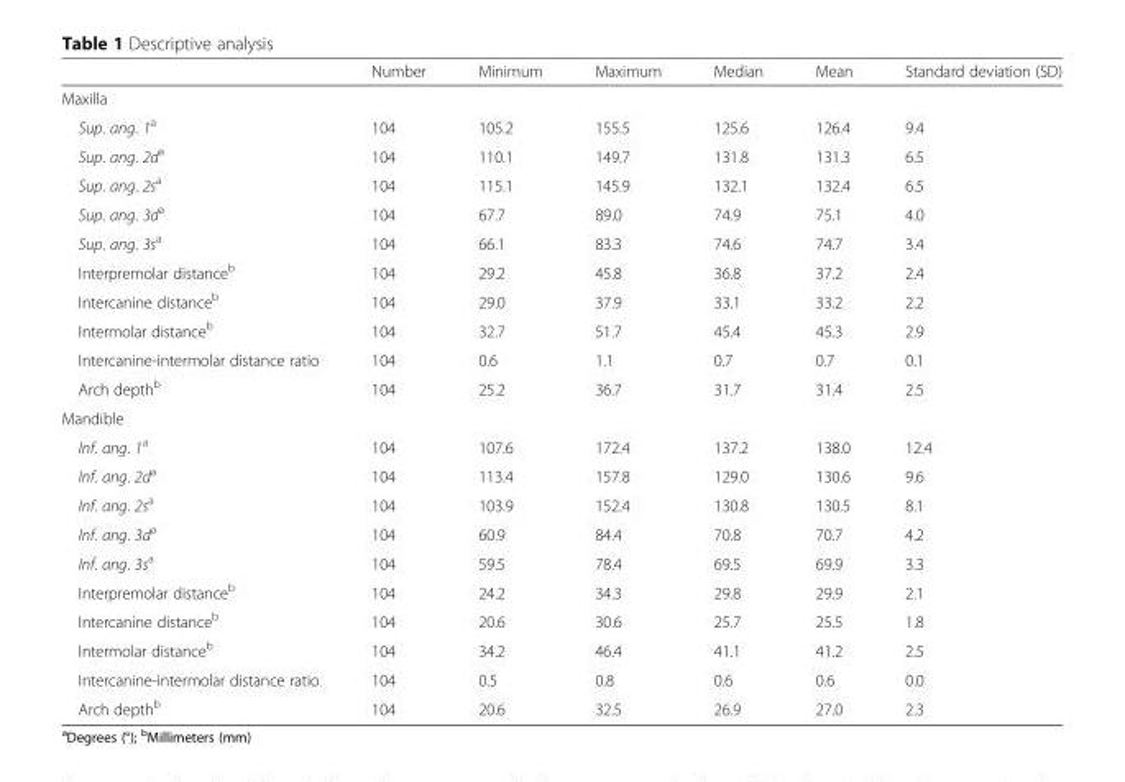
<table><thead><tr><td></td><td>Number</td><td>Minimum</td><td>Maximum</td><td>Median</td><td>Mean</td><td>Standard deviation (SD)</td></tr></thead><tbody><tr><td colspan="7">Maxilla</td></tr><tr><td>Sup. ang. 1<sup>a</sup></td><td>104</td><td>105.2</td><td>155.5</td><td>125.6</td><td>126.4</td><td>9.4</td></tr><tr><td>Sup. ang. 2d<sup>a</sup></td><td>104</td><td>110.1</td><td>149.7</td><td>131.8</td><td>131.3</td><td>6.5</td></tr><tr><td>Sup. ang. 2s<sup>a</sup></td><td>104</td><td>115.1</td><td>145.9</td><td>132.1</td><td>132.4</td><td>6.5</td></tr><tr><td>Sup. ang. 3d<sup>a</sup></td><td>104</td><td>67.7</td><td>89.0</td><td>74.9</td><td>75.1</td><td>4.0</td></tr><tr><td>Sup. ang. 3s<sup>a</sup></td><td>104</td><td>66.1</td><td>83.3</td><td>74.6</td><td>74.7</td><td>3.4</td></tr><tr><td>Interpremolar distance<sup>b</sup></td><td>104</td><td>29.2</td><td>45.8</td><td>36.8</td><td>37.2</td><td>2.4</td></tr><tr><td>Intercanine distance<sup>b</sup></td><td>104</td><td>29.0</td><td>37.9</td><td>33.1</td><td>33.2</td><td>2.2</td></tr><tr><td>Intermolar distance<sup>b</sup></td><td>104</td><td>32.7</td><td>51.7</td><td>45.4</td><td>45.3</td><td>2.9</td></tr><tr><td>Intercanine-intermolar distance ratio</td><td>104</td><td>0.6</td><td>1.1</td><td>0.7</td><td>0.7</td><td>0.1</td></tr><tr><td>Arch depth<sup>b</sup></td><td>104</td><td>25.2</td><td>36.7</td><td>31.7</td><td>31.4</td><td>2.5</td></tr><tr><td colspan="7">Mandible</td></tr><tr><td>Inf. ang. 1<sup>a</sup></td><td>104</td><td>107.6</td><td>172.4</td><td>137.2</td><td>138.0</td><td>12.4</td></tr><tr><td>Inf. ang. 2d<sup>a</sup></td><td>104</td><td>113.4</td><td>157.8</td><td>129.0</td><td>130.6</td><td>9.6</td></tr><tr><td>Inf. ang. 2s<sup>a</sup></td><td>104</td><td>103.9</td><td>152.4</td><td>130.8</td><td>130.5</td><td>8.1</td></tr><tr><td>Inf. ang. 3d<sup>a</sup></td><td>104</td><td>60.9</td><td>84.4</td><td>70.8</td><td>70.7</td><td>4.2</td></tr><tr><td>Inf. ang. 3s<sup>a</sup></td><td>104</td><td>59.5</td><td>78.4</td><td>69.5</td><td>69.9</td><td>3.3</td></tr><tr><td>Interpremolar distance<sup>b</sup></td><td>104</td><td>24.2</td><td>34.3</td><td>29.8</td><td>29.9</td><td>2.1</td></tr><tr><td>Intercanine distance<sup>b</sup></td><td>104</td><td>20.6</td><td>30.6</td><td>25.7</td><td>25.5</td><td>1.8</td></tr><tr><td>Intermolar distance<sup>b</sup></td><td>104</td><td>34.2</td><td>46.4</td><td>41.1</td><td>41.2</td><td>2.5</td></tr><tr><td>Intercanine-intermolar distance ratio</td><td>104</td><td>0.5</td><td>0.8</td><td>0.6</td><td>0.6</td><td>0.0</td></tr><tr><td>Arch depth<sup>b</sup></td><td>104</td><td>20.6</td><td>32.5</td><td>26.9</td><td>27.0</td><td>2.3</td></tr></tbody></table>